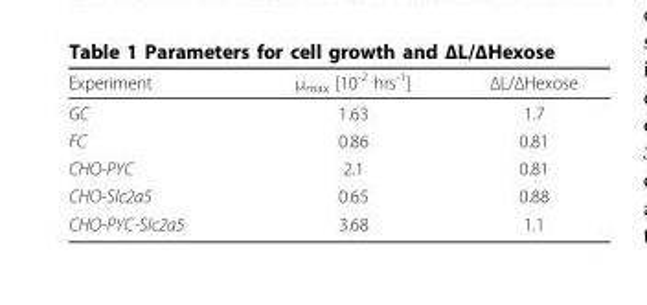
<table><thead><tr><td>Experiment</td><td>µ<sub>max</sub> [10<sup>-2</sup> hrs<sup>-1</sup>]</td><td>ΔL/ΔHexose</td></tr></thead><tbody><tr><td>GC</td><td>1.63</td><td>1.7</td></tr><tr><td>FC</td><td>0.86</td><td>0.81</td></tr><tr><td>CHO-PYC</td><td>2.1</td><td>0.81</td></tr><tr><td>CHO-Slc2a5</td><td>0.65</td><td>0.88</td></tr><tr><td>CHO-PYC-Slc2a5</td><td>3.68</td><td>1.1</td></tr></tbody></table>